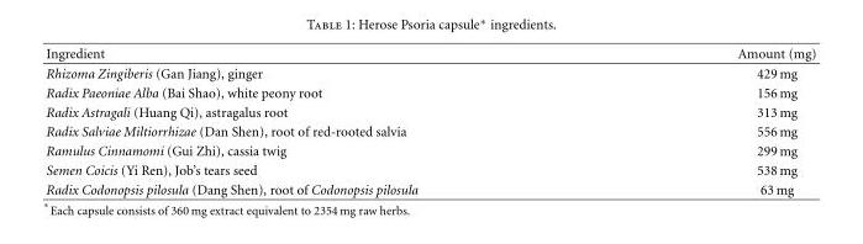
<table><thead><tr><td>Ingredient</td><td>Amount (mg)</td></tr></thead><tbody><tr><td>Rhizoma Zingiberis (Gan Jiang), ginger</td><td>429 mg</td></tr><tr><td>Radix Paeoniae Alba (Bai Shao), white peony root</td><td>156 mg</td></tr><tr><td>Radix Astragali (Huang Qi), astragalus root</td><td>313 mg</td></tr><tr><td>Radix Salviae Miltiorrhizae (Dan Shen), root of red-rooted salvia</td><td>556 mg</td></tr><tr><td>Ramulus Cinnamomi (Gui Zhi), cassia twig</td><td>299 mg</td></tr><tr><td>Semen Coicis (Yi Ren), Job’s tears seed</td><td>538 mg</td></tr><tr><td>Radix Codonopsis pilosula (Dang Shen), root of Codonopsis pilosula</td><td>63 mg</td></tr></tbody></table>